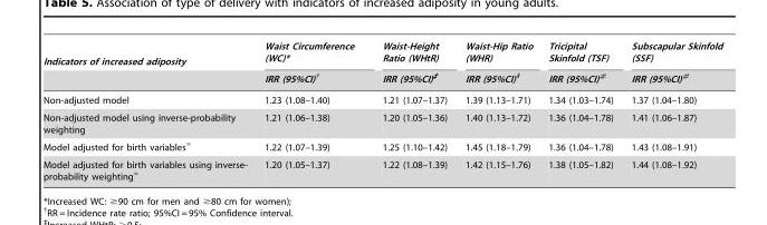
<table><thead><tr><td rowspan="2">Indicators of increased adiposity</td><td rowspan="2">Waist Circumference (WC)* IRR (95%CI)†</td><td rowspan="2">Waist-Height Ratio (WHtR) IRR (95%CI)‡</td><td rowspan="2">Waist-Hip Ratio (WHR) IRR (95%CI)§</td><td rowspan="2">Tricipital Skinfold (TSF) IRR (95%CI)#</td><td rowspan="2">Subscapular Skinfold (SSF) IRR (95%CI)#</td></tr><tr></tr></thead><tbody><tr><td>Non-adjusted model</td><td>1.23 (1.08–1.40)</td><td>1.21 (1.07–1.37)</td><td>1.39 (1.13–1.71)</td><td>1.34 (1.03–1.74)</td><td>1.37 (1.04–1.80)</td></tr><tr><td>Non-adjusted model using inverse-probability weighting</td><td>1.21 (1.06–1.38)</td><td>1.20 (1.05–1.36)</td><td>1.40 (1.13–1.72)</td><td>1.36 (1.04–1.78)</td><td>1.41 (1.06–1.87)</td></tr><tr><td>Model adjusted for birth variables‘</td><td>1.22 (1.07–1.39)</td><td>1.25 (1.10–1.42)</td><td>1.45 (1.18–1.79)</td><td>1.36 (1.04–1.78)</td><td>1.43 (1.08–1.91)</td></tr><tr><td>Model adjusted for birth variables using inverse- probability weighting‘</td><td>1.20 (1.05–1.37)</td><td>1.22 (1.08–1.39)</td><td>1.42 (1.15–1.76)</td><td>1.38 (1.05–1.82)</td><td>1.44 (1.08–1.92)</td></tr></tbody></table>